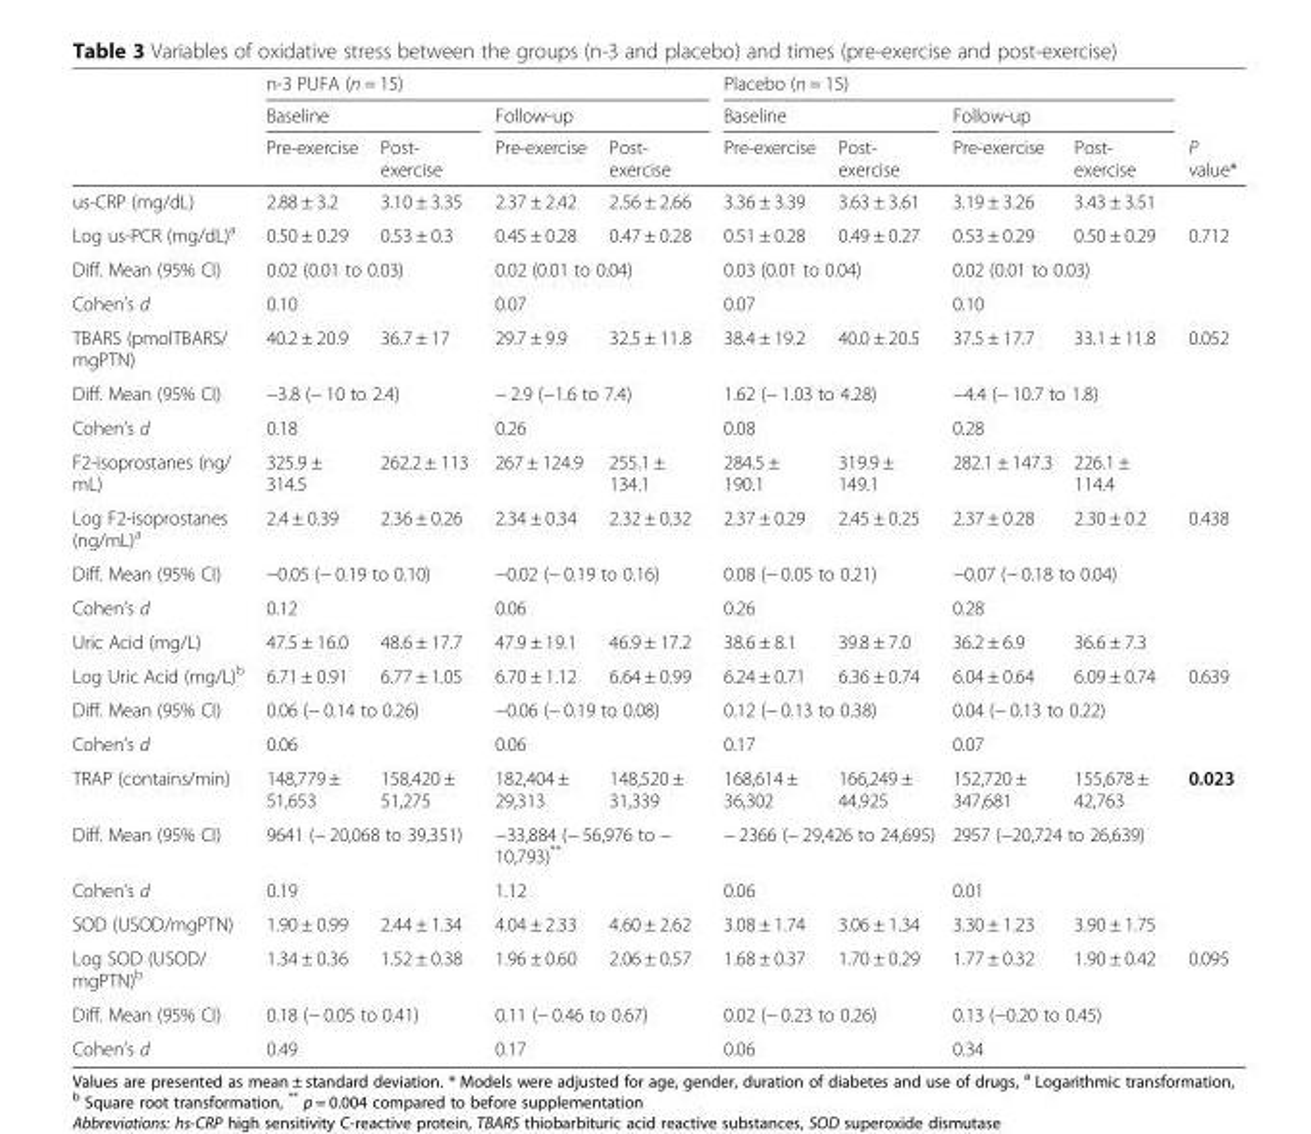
<table><thead><tr><td rowspan="3"></td><td colspan="4">n-3 PUFA (n = 15)</td><td colspan="4">Placebo (n = 15)</td><td rowspan="3">P value*</td></tr><tr><td colspan="2">Baseline</td><td colspan="2">Follow-up</td><td colspan="2">Baseline</td><td colspan="2">Follow-up</td></tr><tr><td>Pre-exercise</td><td>Post- exercise</td><td>Pre-exercise</td><td>Post- exercise</td><td>Pre-exercise</td><td>Post- exercise</td><td>Pre-exercise</td><td>Post- exercise</td></tr></thead><tbody><tr><td>us-CRP (mg/dL)</td><td>2.88 ± 3.2</td><td>3.10 ± 3.35</td><td>2.37 ± 2.42</td><td>2.56 ± 2.66</td><td>3.36 ± 3.39</td><td>3.63 ± 3.61</td><td>3.19 ± 3.26</td><td>3.43 ± 3.51</td><td></td></tr><tr><td>Log us-PCR (mg/dL)<sup>a</sup></td><td>0.50 ± 0.29</td><td>0.53 ± 0.3</td><td>0.45 ± 0.28</td><td>0.47 ± 0.28</td><td>0.51 ± 0.28</td><td>0.49 ± 0.27</td><td>0.53 ± 0.29</td><td>0.50 ± 0.29</td><td>0.712</td></tr><tr><td>Diff. Mean (95% CI)</td><td colspan="2">0.02 (0.01 to 0.03)</td><td colspan="2">0.02 (0.01 to 0.04)</td><td colspan="2">0.03 (0.01 to 0.04)</td><td colspan="2">0.02 (0.01 to 0.03)</td><td></td></tr><tr><td>Cohen’s d</td><td colspan="2">0.10</td><td colspan="2">0.07</td><td colspan="2">0.07</td><td colspan="2">0.10</td><td></td></tr><tr><td>TBARS (pmolTBARS/ mgPTN)</td><td>40.2 ± 20.9</td><td>36.7 ± 17</td><td>29.7 ± 9.9</td><td>32.5 ± 11.8</td><td>38.4 ± 19.2</td><td>40.0 ± 20.5</td><td>37.5 ± 17.7</td><td>33.1 ± 11.8</td><td>0.052</td></tr><tr><td>Diff. Mean (95% CI)</td><td colspan="2">−3.8 (− 10 to 2.4)</td><td colspan="2">− 2.9 (−1.6 to 7.4)</td><td colspan="2">1.62 (− 1.03 to 4.28)</td><td colspan="2">−4.4 (− 10.7 to 1.8)</td><td></td></tr><tr><td>Cohen’s d</td><td colspan="2">0.18</td><td colspan="2">0.26</td><td colspan="2">0.08</td><td colspan="2">0.28</td><td></td></tr><tr><td>F2-isoprostanes (ng/ mL)</td><td>325.9 ± 314.5</td><td>262.2 ± 113</td><td>267 ± 124.9</td><td>255.1 ± 134.1</td><td>284.5 ± 190.1</td><td>319.9 ± 149.1</td><td>282.1 ± 147.3</td><td>226.1 ± 114.4</td><td></td></tr><tr><td>Log F2-isoprostanes (ng/mL)<sup>a</sup></td><td>2.4 ± 0.39</td><td>2.36 ± 0.26</td><td>2.34 ± 0.34</td><td>2.32 ± 0.32</td><td>2.37 ± 0.29</td><td>2.45 ± 0.25</td><td>2.37 ± 0.28</td><td>2.30 ± 0.2</td><td>0.438</td></tr><tr><td>Diff. Mean (95% CI)</td><td colspan="2">−0.05 (− 0.19 to 0.10)</td><td colspan="2">−0.02 (− 0.19 to 0.16)</td><td colspan="2">0.08 (− 0.05 to 0.21)</td><td colspan="2">−0.07 (− 0.18 to 0.04)</td><td></td></tr><tr><td>Cohen’s d</td><td colspan="2">0.12</td><td colspan="2">0.06</td><td colspan="2">0.26</td><td colspan="2">0.28</td><td></td></tr><tr><td>Uric Acid (mg/L)</td><td>47.5 ± 16.0</td><td>48.6 ± 17.7</td><td>47.9 ± 19.1</td><td>46.9 ± 17.2</td><td>38.6 ± 8.1</td><td>39.8 ± 7.0</td><td>36.2 ± 6.9</td><td>36.6 ± 7.3</td><td></td></tr><tr><td>Log Uric Acid (mg/L)<sup>b</sup></td><td>6.71 ± 0.91</td><td>6.77 ± 1.05</td><td>6.70 ± 1.12</td><td>6.64 ± 0.99</td><td>6.24 ± 0.71</td><td>6.36 ± 0.74</td><td>6.04 ± 0.64</td><td>6.09 ± 0.74</td><td>0.639</td></tr><tr><td>Diff. Mean (95% CI)</td><td colspan="2">0.06 (− 0.14 to 0.26)</td><td colspan="2">−0.06 (− 0.19 to 0.08)</td><td colspan="2">0.12 (− 0.13 to 0.38)</td><td colspan="2">0.04 (− 0.13 to 0.22)</td><td></td></tr><tr><td>Cohen’s d</td><td colspan="2">0.06</td><td colspan="2">0.06</td><td colspan="2">0.17</td><td colspan="2">0.07</td><td></td></tr><tr><td>TRAP (contains/min)</td><td>148,779 ± 51,653</td><td>158,420 ± 51,275</td><td>182,404 ± 29,313</td><td>148,520 ± 31,339</td><td>168,614 ± 36,302</td><td>166,249 ± 44,925</td><td>152,720 ± 347,681</td><td>155,678 ± 42,763</td><td>0.023</td></tr><tr><td>Diff. Mean (95% CI)</td><td colspan="2">9641 (− 20,068 to 39,351)</td><td colspan="2">−33,884 (− 56,976 to − 10,793)**</td><td colspan="2">− 2366 (− 29,426 to 24,695)</td><td colspan="2">2957 (−20,724 to 26,639)</td><td></td></tr><tr><td>Cohen’s d</td><td colspan="2">0.19</td><td colspan="2">1.12</td><td colspan="2">0.06</td><td colspan="2">0.01</td><td></td></tr><tr><td>SOD (USOD/mgPTN)</td><td>1.90 ± 0.99</td><td>2.44 ± 1.34</td><td>4.04 ± 2.33</td><td>4.60 ± 2.62</td><td>3.08 ± 1.74</td><td>3.06 ± 1.34</td><td>3.30 ± 1.23</td><td>3.90 ± 1.75</td><td></td></tr><tr><td>Log SOD (USOD/ mgPTN)<sup>b</sup></td><td>1.34 ± 0.36</td><td>1.52 ± 0.38</td><td>1.96 ± 0.60</td><td>2.06 ± 0.57</td><td>1.68 ± 0.37</td><td>1.70 ± 0.29</td><td>1.77 ± 0.32</td><td>1.90 ± 0.42</td><td>0.095</td></tr><tr><td>Diff. Mean (95% CI)</td><td colspan="2">0.18 (− 0.05 to 0.41)</td><td colspan="2">0.11 (− 0.46 to 0.67)</td><td colspan="2">0.02 (− 0.23 to 0.26)</td><td colspan="2">0.13 (−0.20 to 0.45)</td><td></td></tr><tr><td>Cohen’s d</td><td colspan="2">0.49</td><td colspan="2">0.17</td><td colspan="2">0.06</td><td colspan="2">0.34</td><td></td></tr></tbody></table>